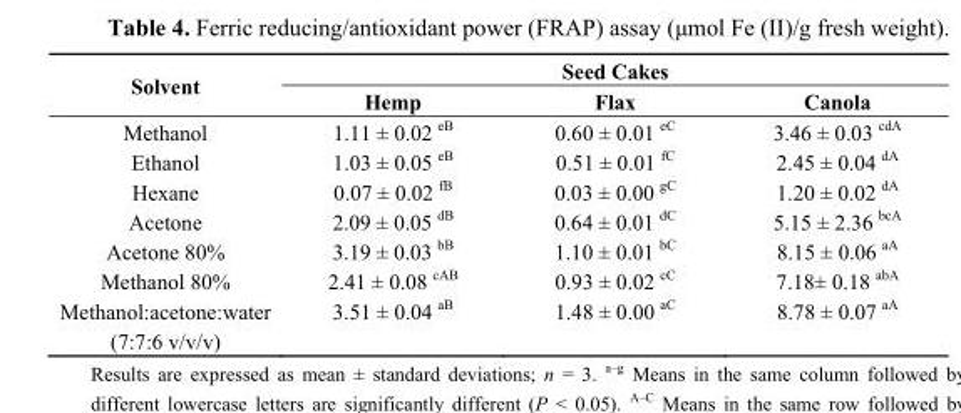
<table><thead><tr><td rowspan="2">Solvent</td><td colspan="3">Seed Cakes</td></tr><tr><td>Hemp</td><td>Flax</td><td>Canola</td></tr></thead><tbody><tr><td>Methanol</td><td>1.11 ± 0.02 <sup>eB</sup></td><td>0.60 ± 0.01 <sup>eC</sup></td><td>3.46 ± 0.03 <sup>cdA</sup></td></tr><tr><td>Ethanol</td><td>1.03 ± 0.05 <sup>eB</sup></td><td>0.51 ± 0.01 <sup>fC</sup></td><td>2.45 ± 0.04 <sup>dA</sup></td></tr><tr><td>Hexane</td><td>0.07 ± 0.02 <sup>fB</sup></td><td>0.03 ± 0.00 <sup>gC</sup></td><td>1.20 ± 0.02 <sup>dA</sup></td></tr><tr><td>Acetone</td><td>2.09 ± 0.05 <sup>dB</sup></td><td>0.64 ± 0.01 <sup>dC</sup></td><td>5.15 ± 2.36 <sup>bcA</sup></td></tr><tr><td>Acetone 80%</td><td>3.19 ± 0.03 <sup>bB</sup></td><td>1.10 ± 0.01 <sup>bC</sup></td><td>8.15 ± 0.06 <sup>aA</sup></td></tr><tr><td>Methanol 80%</td><td>2.41 ± 0.08 <sup>cAB</sup></td><td>0.93 ± 0.02 <sup>cC</sup></td><td>7.18± 0.18 <sup>abA</sup></td></tr><tr><td>Methanol:acetone:water (7:7:6 v/v/v)</td><td>3.51 ± 0.04 <sup>aB</sup></td><td>1.48 ± 0.00 <sup>aC</sup></td><td>8.78 ± 0.07 <sup>aA</sup></td></tr></tbody></table>